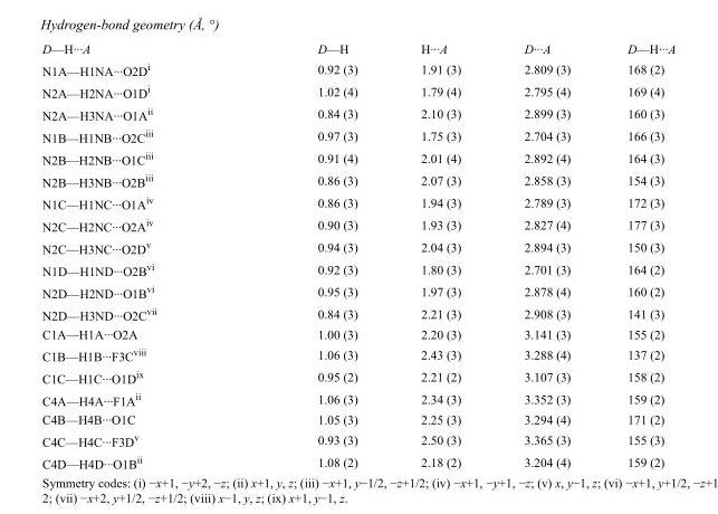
<table><tbody><tr><td>D—H···A</td><td>D—H</td><td>H···A</td><td>D···A</td><td>D—H···A</td></tr><tr><td>N1A—H1NA···O2D<sup>i</sup></td><td>0.92 (3)</td><td>1.91 (3)</td><td>2.809 (3)</td><td>168 (2)</td></tr><tr><td>N2A—H2NA···O1D<sup>i</sup></td><td>1.02 (4)</td><td>1.79 (4)</td><td>2.795 (4)</td><td>169 (4)</td></tr><tr><td>N2A—H3NA···O1A<sup>ii</sup></td><td>0.84 (3)</td><td>2.10 (3)</td><td>2.899 (3)</td><td>160 (3)</td></tr><tr><td>N1B—H1NB···O2C<sup>iii</sup></td><td>0.97 (3)</td><td>1.75 (3)</td><td>2.704 (3)</td><td>166 (3)</td></tr><tr><td>N2B—H2NB···O1C<sup>iii</sup></td><td>0.91 (4)</td><td>2.01 (4)</td><td>2.892 (4)</td><td>164 (3)</td></tr><tr><td>N2B—H3NB···O2B<sup>iii</sup></td><td>0.86 (3)</td><td>2.07 (3)</td><td>2.858 (3)</td><td>154 (3)</td></tr><tr><td>N1C—H1NC···O1A<sup>iv</sup></td><td>0.86 (3)</td><td>1.94 (3)</td><td>2.789 (3)</td><td>172 (3)</td></tr><tr><td>N2C—H2NC···O2A<sup>iv</sup></td><td>0.90 (3)</td><td>1.93 (3)</td><td>2.827 (4)</td><td>177 (3)</td></tr><tr><td>N2C—H3NC···O2D<sup>v</sup></td><td>0.94 (3)</td><td>2.04 (3)</td><td>2.894 (3)</td><td>150 (3)</td></tr><tr><td>N1D—H1ND···O2B<sup>vi</sup></td><td>0.92 (3)</td><td>1.80 (3)</td><td>2.701 (3)</td><td>164 (2)</td></tr><tr><td>N2D—H2ND···O1B<sup>vi</sup></td><td>0.95 (3)</td><td>1.97 (3)</td><td>2.878 (4)</td><td>160 (2)</td></tr><tr><td>N2D—H3ND···O2C<sup>vii</sup></td><td>0.84 (3)</td><td>2.21 (3)</td><td>2.908 (3)</td><td>141 (3)</td></tr><tr><td>C1A—H1A···O2A</td><td>1.00 (3)</td><td>2.20 (3)</td><td>3.141 (3)</td><td>155 (2)</td></tr><tr><td>C1B—H1B···F3C<sup>viii</sup></td><td>1.06 (3)</td><td>2.43 (3)</td><td>3.288 (4)</td><td>137 (2)</td></tr><tr><td>C1C—H1C···O1D<sup>ix</sup></td><td>0.95 (2)</td><td>2.21 (2)</td><td>3.107 (3)</td><td>158 (2)</td></tr><tr><td>C4A—H4A···F1A<sup>ii</sup></td><td>1.06 (3)</td><td>2.34 (3)</td><td>3.352 (3)</td><td>159 (2)</td></tr><tr><td>C4B—H4B···O1C</td><td>1.05 (3)</td><td>2.25 (3)</td><td>3.294 (4)</td><td>171 (2)</td></tr><tr><td>C4C—H4C···F3D<sup>v</sup></td><td>0.93 (3)</td><td>2.50 (3)</td><td>3.365 (3)</td><td>155 (3)</td></tr><tr><td>C4D—H4D···O1B<sup>ii</sup></td><td>1.08 (2)</td><td>2.18 (2)</td><td>3.204 (4)</td><td>159 (2)</td></tr></tbody></table>